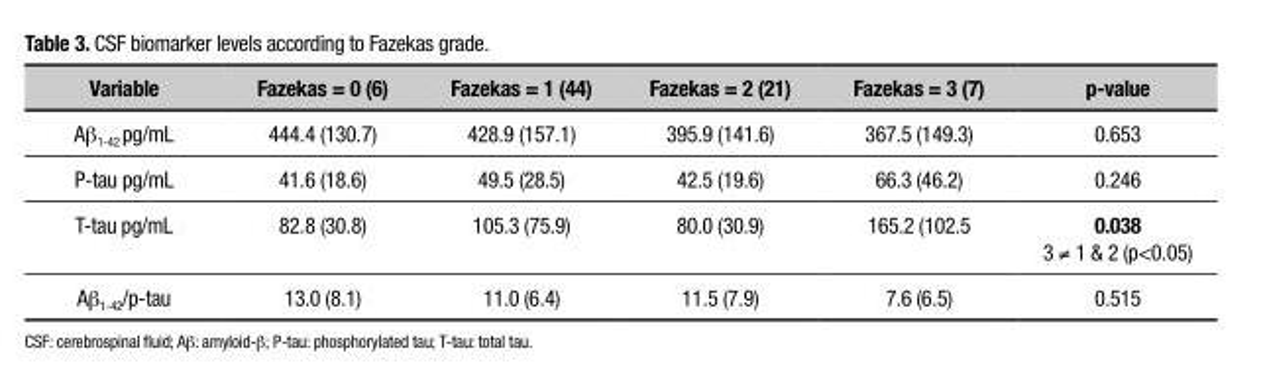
<table><thead><tr><td>Variable</td><td>Fazekas = 0 (6)</td><td>Fazekas = 1 (44)</td><td>Fazekas = 2 (21)</td><td>Fazekas = 3 (7)</td><td>p-value</td></tr></thead><tbody><tr><td>Aβ<sub>1-42</sub> pg/mL</td><td>444.4 (130.7)</td><td>428.9 (157.1)</td><td>395.9 (141.6)</td><td>367.5 (149.3)</td><td>0.653</td></tr><tr><td>P-tau pg/mL</td><td>41.6 (18.6)</td><td>49.5 (28.5)</td><td>42.5 (19.6)</td><td>66.3 (46.2)</td><td>0.246</td></tr><tr><td>T-tau pg/mL</td><td>82.8 (30.8)</td><td>105.3 (75.9)</td><td>80.0 (30.9)</td><td>165.2 (102.5</td><td>0.038 3 ≠ 1 &amp; 2 (p&lt;0.05)</td></tr><tr><td>Aβ<sub>1-42</sub>/p-tau</td><td>13.0 (8.1)</td><td>11.0 (6.4)</td><td>11.5 (7.9)</td><td>7.6 (6.5)</td><td>0.515</td></tr></tbody></table>